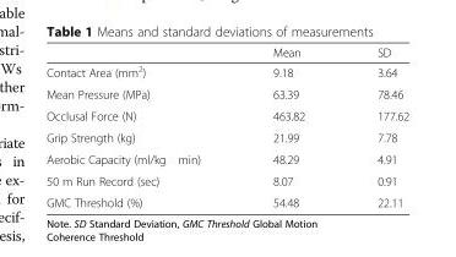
<table><thead><tr><td></td><td>Mean</td><td>SD</td></tr></thead><tbody><tr><td>Contact Area (mm<sup>2</sup>)</td><td>9.18</td><td>3.64</td></tr><tr><td>Mean Pressure (MPa)</td><td>63.39</td><td>78.46</td></tr><tr><td>Occlusal Force (N)</td><td>463.82</td><td>177.62</td></tr><tr><td>Grip Strength (kg)</td><td>21.99</td><td>7.78</td></tr><tr><td>Aerobic Capacity (ml/kg min)</td><td>48.29</td><td>4.91</td></tr><tr><td>50 m Run Record (sec)</td><td>8.07</td><td>0.91</td></tr><tr><td>GMC Threshold (%)</td><td>54.48</td><td>22.11</td></tr></tbody></table>